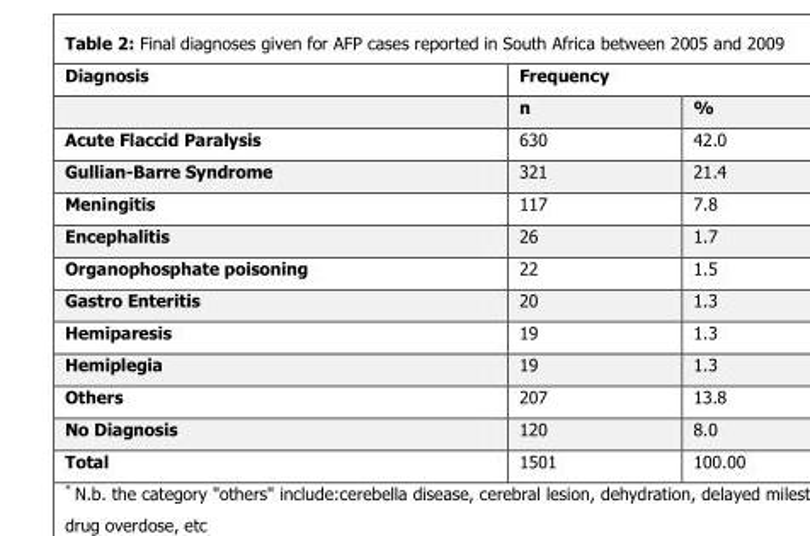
<table><thead><tr><td rowspan="2">Diagnosis</td><td colspan="2">Frequency</td></tr><tr><td>n</td><td>%</td></tr></thead><tbody><tr><td>Acute Flaccid Paralysis</td><td>630</td><td>42.0</td></tr><tr><td>Gullian-Barre Syndrome</td><td>321</td><td>21.4</td></tr><tr><td>Meningitis</td><td>117</td><td>7.8</td></tr><tr><td>Encephalitis</td><td>26</td><td>1.7</td></tr><tr><td>Organophosphate poisoning</td><td>22</td><td>1.5</td></tr><tr><td>Gastro Enteritis</td><td>20</td><td>1.3</td></tr><tr><td>Hemiparesis</td><td>19</td><td>1.3</td></tr><tr><td>Hemiplegia</td><td>19</td><td>1.3</td></tr><tr><td>Others</td><td>207</td><td>13.8</td></tr><tr><td>No Diagnosis</td><td>120</td><td>8.0</td></tr><tr><td>Total</td><td>1501</td><td>100.00</td></tr></tbody></table>